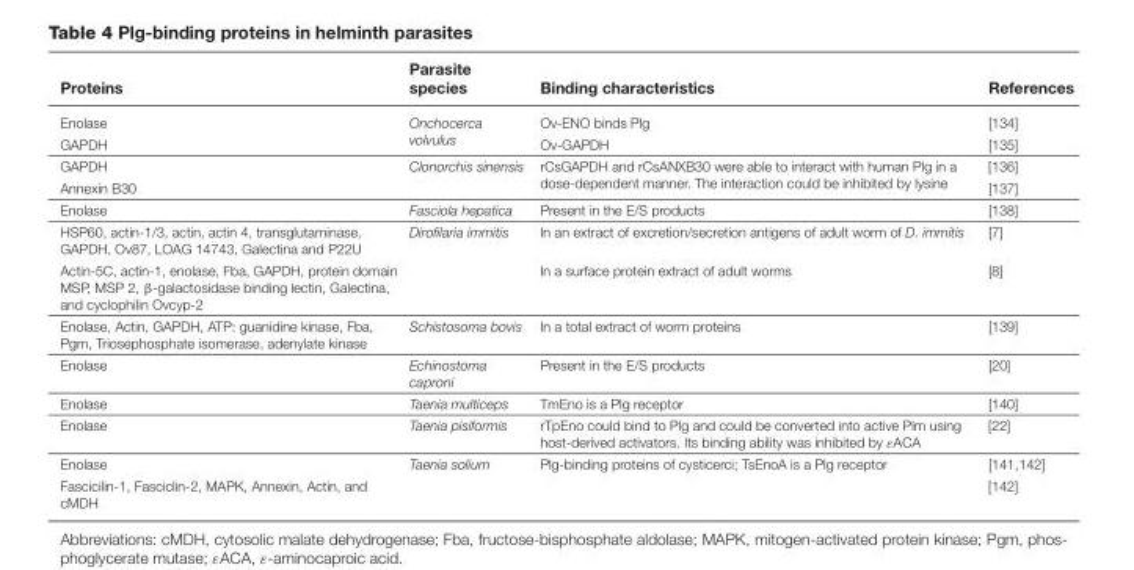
<table><thead><tr><td>Proteins</td><td>Parasite species</td><td>Binding characteristics</td><td>References</td></tr></thead><tbody><tr><td>Enolase</td><td rowspan="2">Onchocerca volvulus</td><td>Ov-ENO binds Plg</td><td>[134]</td></tr><tr><td>GAPDH</td><td>Ov-GAPDH</td><td>[135]</td></tr><tr><td>GAPDH</td><td rowspan="2">Clonorchis sinensis</td><td rowspan="2">rCsGAPDH and rCsANXB30 were able to interact with human Plg in a dose-dependent manner. The interaction could be inhibited by lysine</td><td>[136]</td></tr><tr><td>Annexin B30</td><td>[137]</td></tr><tr><td>Enolase</td><td>Fasciola hepatica</td><td>Present in the E/S products</td><td>[138]</td></tr><tr><td>HSP60, actin-1/3, actin, actin 4, transglutaminase, GAPDH, Ov87, LOAG 14743, Galectina and P22U</td><td rowspan="2">Dirofilaria immitis</td><td>In an extract of excretion/secretion antigens of adult worm of D. immitis</td><td>[7]</td></tr><tr><td>Actin-5C, actin-1, enolase, Fba, GAPDH, protein domain MSP, MSP 2, β-galactosidase binding lectin, Galectina, and cyclophilin Ovcyp-2</td><td>In a surface protein extract of adult worms</td><td>[8]</td></tr><tr><td>Enolase, Actin, GAPDH, ATP: guanidine kinase, Fba, Pgm, Triosephosphate isomerase, adenylate kinase</td><td>Schistosoma bovis</td><td>In a total extract of worm proteins</td><td>[139]</td></tr><tr><td>Enolase</td><td>Echinostoma caproni</td><td>Present in the E/S products</td><td>[20]</td></tr><tr><td>Enolase</td><td>Taenia multiceps</td><td>TmEno is a Plg receptor</td><td>[140]</td></tr><tr><td>Enolase</td><td>Taenia pisiformis</td><td>rTpEno could bind to Plg and could be converted into active Plm using host-derived activators. Its binding ability was inhibited by εACA</td><td>[22]</td></tr><tr><td>Enolase</td><td rowspan="2">Taenia solium</td><td rowspan="2">Plg-binding proteins of cysticerci; TsEnoA is a Plg receptor</td><td>[141,142]</td></tr><tr><td>Fascicilin-1, Fasciclin-2, MAPK, Annexin, Actin, and cMDH</td><td>[142]</td></tr></tbody></table>